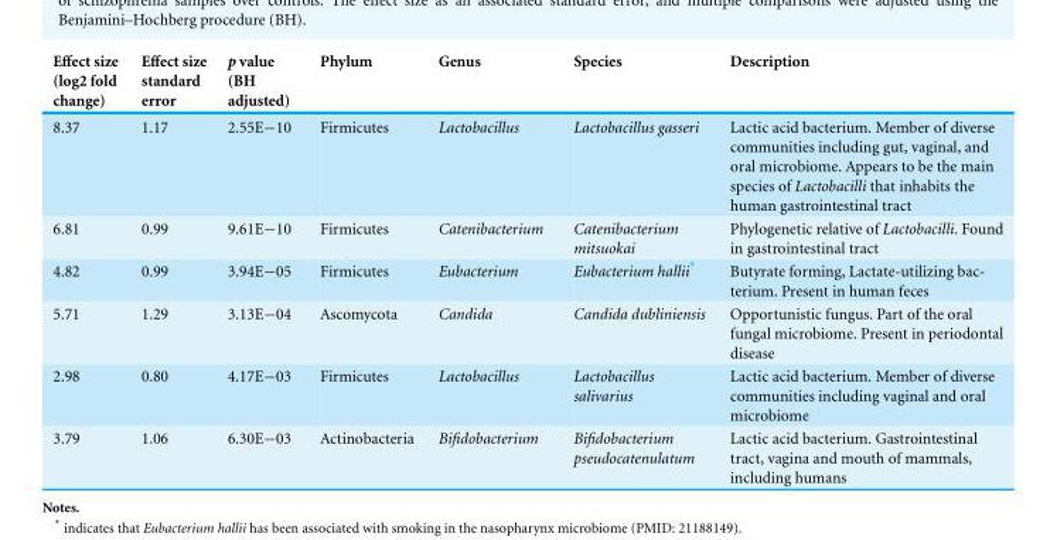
<table><thead><tr><td>Effect size (log2 fold change)</td><td>Effect size standard error</td><td>p value (BH adjusted)</td><td>Phylum</td><td>Genus</td><td>Species</td><td>Description</td></tr></thead><tbody><tr><td>8.37</td><td>1.17</td><td>2.55E−10</td><td>Firmicutes</td><td>Lactobacillus</td><td>Lactobacillus gasseri</td><td>Lactic acid bacterium. Member of diverse communities including gut, vaginal, and oral microbiome. Appears to be the main species of Lactobacilli that inhabits the human gastrointestinal tract</td></tr><tr><td>6.81</td><td>0.99</td><td>9.61E−10</td><td>Firmicutes</td><td>Catenibacterium</td><td>Catenibacterium mitsuokai</td><td>Phylogenetic relative of Lactobacilli. Found in gastrointestinal tract</td></tr><tr><td>4.82</td><td>0.99</td><td>3.94E−05</td><td>Firmicutes</td><td>Eubacterium</td><td>Eubacterium hallii*</td><td>Butyrate forming, Lactate-utilizing bac- terium. Present in human feces</td></tr><tr><td>5.71</td><td>1.29</td><td>3.13E−04</td><td>Ascomycota</td><td>Candida</td><td>Candida dubliniensis</td><td>Opportunistic fungus. Part of the oral fungal microbiome. Present in periodontal disease</td></tr><tr><td>2.98</td><td>0.80</td><td>4.17E−03</td><td>Firmicutes</td><td>Lactobacillus</td><td>Lactobacillus salivarius</td><td>Lactic acid bacterium. Member of diverse communities including vaginal and oral microbiome</td></tr><tr><td>3.79</td><td>1.06</td><td>6.30E−03</td><td>Actinobacteria</td><td>Bifidobacterium</td><td>Bifidobacterium pseudocatenulatum</td><td>Lactic acid bacterium. Gastrointestinal tract, vagina and mouth of mammals, including humans</td></tr></tbody></table>